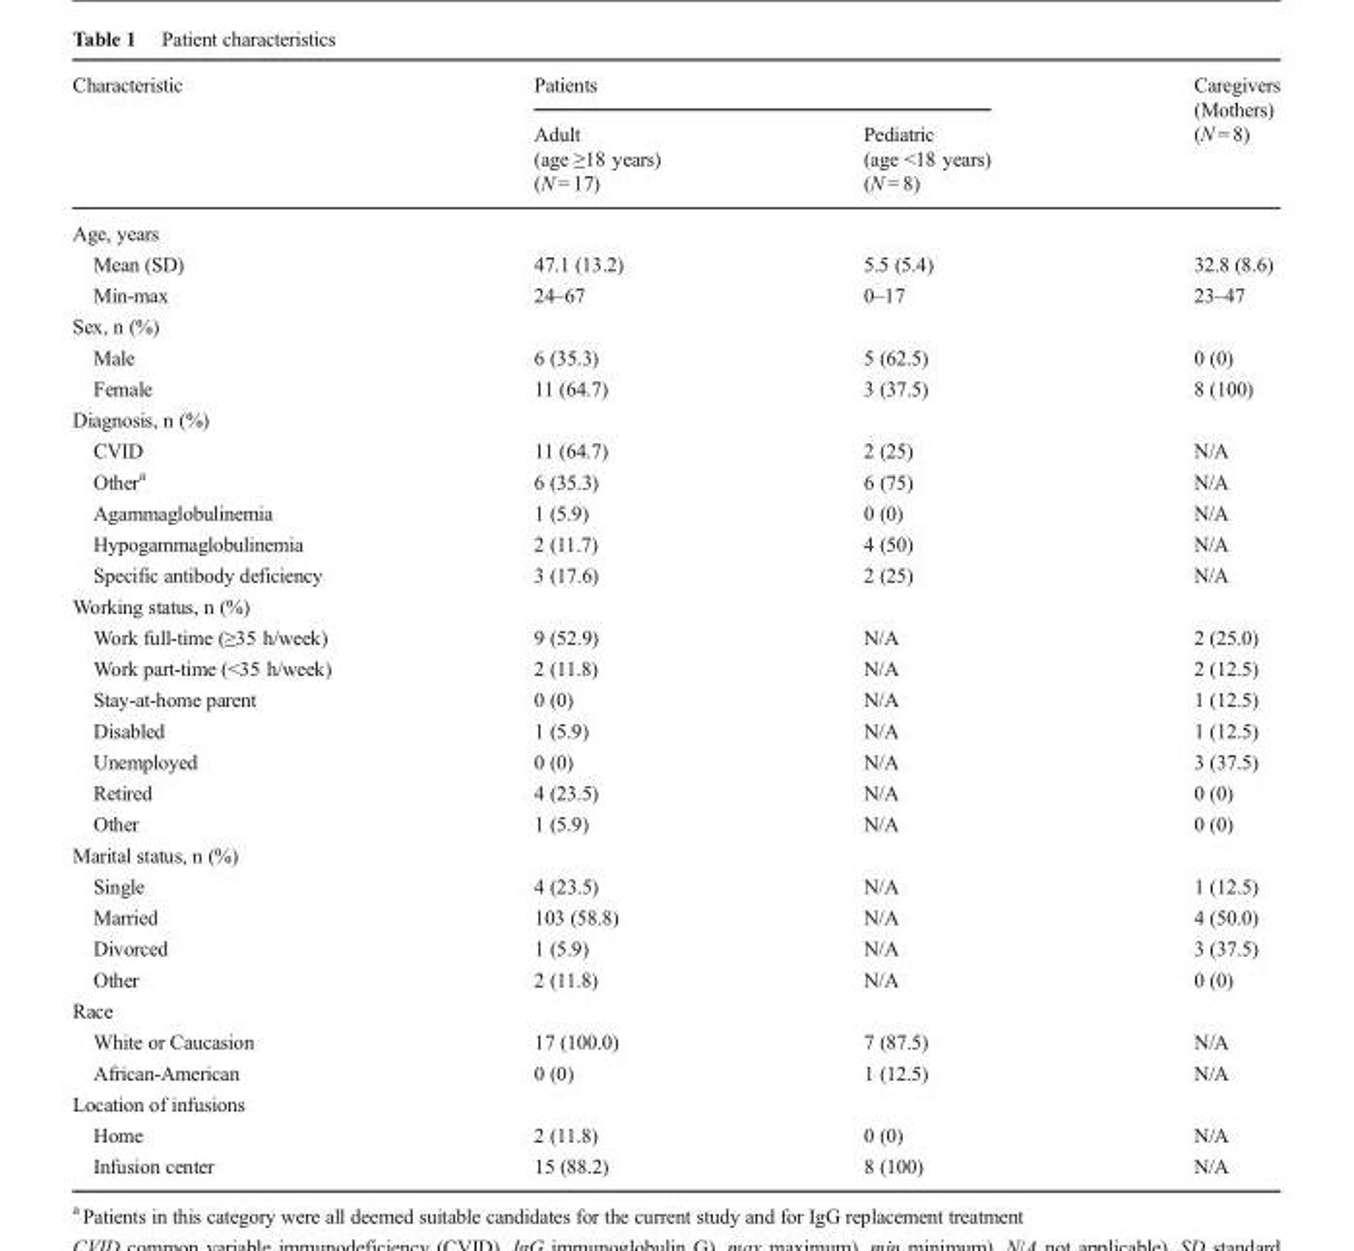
<table><thead><tr><td rowspan="2">Characteristic</td><td colspan="2">Patients</td><td rowspan="2">Caregivers (Mothers) (N = 8)</td></tr><tr><td>Adult (age ≥18 years) (N = 17)</td><td>Pediatric (age &lt;18 years) (N = 8)</td></tr></thead><tbody><tr><td colspan="4">Age, years</td></tr><tr><td>Mean (SD)</td><td>47.1 (13.2)</td><td>5.5 (5.4)</td><td>32.8 (8.6)</td></tr><tr><td>Min-max</td><td>24–67</td><td>0–17</td><td>23–47</td></tr><tr><td colspan="4">Sex, n (%)</td></tr><tr><td>Male</td><td>6 (35.3)</td><td>5 (62.5)</td><td>0 (0)</td></tr><tr><td>Female</td><td>11 (64.7)</td><td>3 (37.5)</td><td>8 (100)</td></tr><tr><td colspan="4">Diagnosis, n (%)</td></tr><tr><td>CVID</td><td>11 (64.7)</td><td>2 (25)</td><td>N/A</td></tr><tr><td>Other<sup>a</sup></td><td>6 (35.3)</td><td>6 (75)</td><td>N/A</td></tr><tr><td>Agammaglobulinemia</td><td>1 (5.9)</td><td>0 (0)</td><td>N/A</td></tr><tr><td>Hypogammaglobulinemia</td><td>2 (11.7)</td><td>4 (50)</td><td>N/A</td></tr><tr><td>Specific antibody deficiency</td><td>3 (17.6)</td><td>2 (25)</td><td>N/A</td></tr><tr><td colspan="4">Working status, n (%)</td></tr><tr><td>Work full-time (≥35 h/week)</td><td>9 (52.9)</td><td>N/A</td><td>2 (25.0)</td></tr><tr><td>Work part-time (&lt;35 h/week)</td><td>2 (11.8)</td><td>N/A</td><td>2 (12.5)</td></tr><tr><td>Stay-at-home parent</td><td>0 (0)</td><td>N/A</td><td>1 (12.5)</td></tr><tr><td>Disabled</td><td>1 (5.9)</td><td>N/A</td><td>1 (12.5)</td></tr><tr><td>Unemployed</td><td>0 (0)</td><td>N/A</td><td>3 (37.5)</td></tr><tr><td>Retired</td><td>4 (23.5)</td><td>N/A</td><td>0 (0)</td></tr><tr><td>Other</td><td>1 (5.9)</td><td>N/A</td><td>0 (0)</td></tr><tr><td colspan="4">Marital status, n (%)</td></tr><tr><td>Single</td><td>4 (23.5)</td><td>N/A</td><td>1 (12.5)</td></tr><tr><td>Married</td><td>103 (58.8)</td><td>N/A</td><td>4 (50.0)</td></tr><tr><td>Divorced</td><td>1 (5.9)</td><td>N/A</td><td>3 (37.5)</td></tr><tr><td>Other</td><td>2 (11.8)</td><td>N/A</td><td>0 (0)</td></tr><tr><td colspan="4">Race</td></tr><tr><td>White or Caucasion</td><td>17 (100.0)</td><td>7 (87.5)</td><td>N/A</td></tr><tr><td>African-American</td><td>0 (0)</td><td>1 (12.5)</td><td>N/A</td></tr><tr><td colspan="4">Location of infusions</td></tr><tr><td>Home</td><td>2 (11.8)</td><td>0 (0)</td><td>N/A</td></tr><tr><td>Infusion center</td><td>15 (88.2)</td><td>8 (100)</td><td>N/A</td></tr></tbody></table>